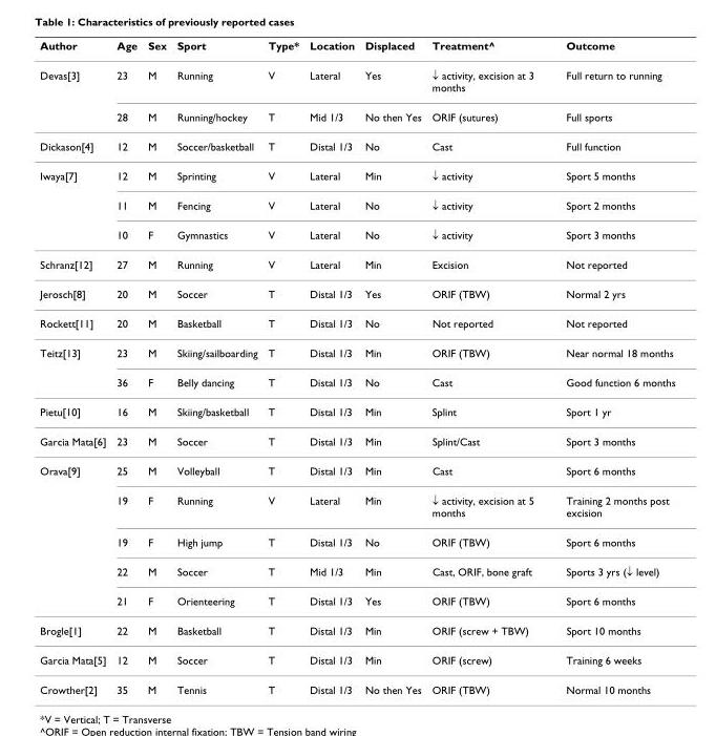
<table><thead><tr><td>Author</td><td>Age</td><td>Sex</td><td>Sport</td><td>Type*</td><td>Location</td><td>Displaced</td><td>Treatment^</td><td>Outcome</td></tr></thead><tbody><tr><td rowspan="2">Devas[3]</td><td>23</td><td>M</td><td>Running</td><td>V</td><td>Lateral</td><td>Yes</td><td>↓ activity, excision at 3 months</td><td>Full return to running</td></tr><tr><td>28</td><td>M</td><td>Running/hockey</td><td>T</td><td>Mid 1/3</td><td>No then Yes</td><td>ORIF (sutures)</td><td>Full sports</td></tr><tr><td>Dickason[4]</td><td>12</td><td>M</td><td>Soccer/basketball</td><td>T</td><td>Distal 1/3</td><td>No</td><td>Cast</td><td>Full function</td></tr><tr><td rowspan="3">Iwaya[7]</td><td>12</td><td>M</td><td>Sprinting</td><td>V</td><td>Lateral</td><td>Min</td><td>↓ activity</td><td>Sport 5 months</td></tr><tr><td>11</td><td>M</td><td>Fencing</td><td>V</td><td>Lateral</td><td>No</td><td>↓ activity</td><td>Sport 2 months</td></tr><tr><td>10</td><td>F</td><td>Gymnastics</td><td>V</td><td>Lateral</td><td>No</td><td>↓ activity</td><td>Sport 3 months</td></tr><tr><td>Schranz[12]</td><td>27</td><td>M</td><td>Running</td><td>V</td><td>Lateral</td><td>Min</td><td>Excision</td><td>Not reported</td></tr><tr><td>Jerosch[8]</td><td>20</td><td>M</td><td>Soccer</td><td>T</td><td>Distal 1/3</td><td>Yes</td><td>ORIF (TBW)</td><td>Normal 2 yrs</td></tr><tr><td>Rockett[11]</td><td>20</td><td>M</td><td>Basketball</td><td>T</td><td>Distal 1/3</td><td>No</td><td>Not reported</td><td>Not reported</td></tr><tr><td rowspan="2">Teitz[13]</td><td>23</td><td>M</td><td>Skiing/sailboarding</td><td>T</td><td>Distal 1/3</td><td>Min</td><td>ORIF (TBW)</td><td>Near normal 18 months</td></tr><tr><td>36</td><td>F</td><td>Belly dancing</td><td>T</td><td>Distal 1/3</td><td>No</td><td>Cast</td><td>Good function 6 months</td></tr><tr><td>Pietu[10]</td><td>16</td><td>M</td><td>Skiing/basketball</td><td>T</td><td>Distal 1/3</td><td>Min</td><td>Splint</td><td>Sport 1 yr</td></tr><tr><td>Garcia Mata[6]</td><td>23</td><td>M</td><td>Soccer</td><td>T</td><td>Distal 1/3</td><td>Min</td><td>Splint/Cast</td><td>Sport 3 months</td></tr><tr><td rowspan="5">Orava[9]</td><td>25</td><td>M</td><td>Volleyball</td><td>T</td><td>Distal 1/3</td><td>Min</td><td>Cast</td><td>Sport 6 months</td></tr><tr><td>19</td><td>F</td><td>Running</td><td>V</td><td>Lateral</td><td>Min</td><td>↓ activity, excision at 5 months</td><td>Training 2 months post excision</td></tr><tr><td>19</td><td>F</td><td>High jump</td><td>T</td><td>Distal 1/3</td><td>No</td><td>ORIF (TBW)</td><td>Sport 6 months</td></tr><tr><td>22</td><td>M</td><td>Soccer</td><td>T</td><td>Mid 1/3</td><td>Min</td><td>Cast, ORIF, bone graft</td><td>Sports 3 yrs (↓ level)</td></tr><tr><td>21</td><td>F</td><td>Orienteering</td><td>T</td><td>Distal 1/3</td><td>Yes</td><td>ORIF (TBW)</td><td>Sport 6 months</td></tr><tr><td>Brogle[1]</td><td>22</td><td>M</td><td>Basketball</td><td>T</td><td>Distal 1/3</td><td>Min</td><td>ORIF (screw + TBW)</td><td>Sport 10 months</td></tr><tr><td>Garcia Mata[5]</td><td>12</td><td>M</td><td>Soccer</td><td>T</td><td>Distal 1/3</td><td>Min</td><td>ORIF (screw)</td><td>Training 6 weeks</td></tr><tr><td>Crowther[2]</td><td>35</td><td>M</td><td>Tennis</td><td>T</td><td>Distal 1/3</td><td>No then Yes</td><td>ORIF (TBW)</td><td>Normal 10 months</td></tr></tbody></table>